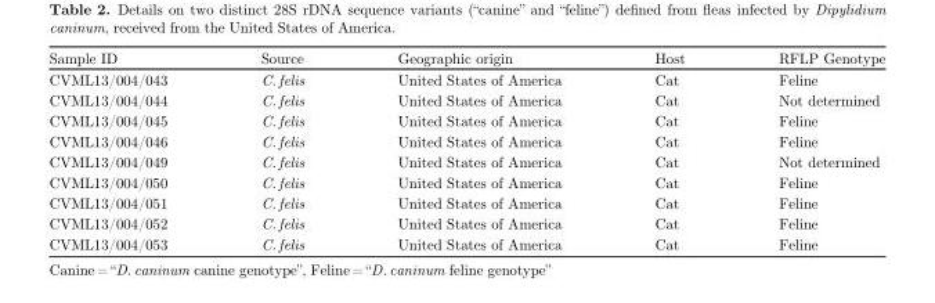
<table><thead><tr><td>Sample ID</td><td>Source</td><td>Geographic origin</td><td>Host</td><td>RFLP Genotype</td></tr></thead><tbody><tr><td>CVML13/004/043</td><td>C. felis</td><td>United States of America</td><td>Cat</td><td>Feline</td></tr><tr><td>CVML13/004/044</td><td>C. felis</td><td>United States of America</td><td>Cat</td><td>Not determined</td></tr><tr><td>CVML13/004/045</td><td>C. felis</td><td>United States of America</td><td>Cat</td><td>Feline</td></tr><tr><td>CVML13/004/046</td><td>C. felis</td><td>United States of America</td><td>Cat</td><td>Feline</td></tr><tr><td>CVML13/004/049</td><td>C. felis</td><td>United States of America</td><td>Cat</td><td>Not determined</td></tr><tr><td>CVML13/004/050</td><td>C. felis</td><td>United States of America</td><td>Cat</td><td>Feline</td></tr><tr><td>CVML13/004/051</td><td>C. felis</td><td>United States of America</td><td>Cat</td><td>Feline</td></tr><tr><td>CVML13/004/052</td><td>C. felis</td><td>United States of America</td><td>Cat</td><td>Feline</td></tr><tr><td>CVML13/004/053</td><td>C. felis</td><td>United States of America</td><td>Cat</td><td>Feline</td></tr></tbody></table>